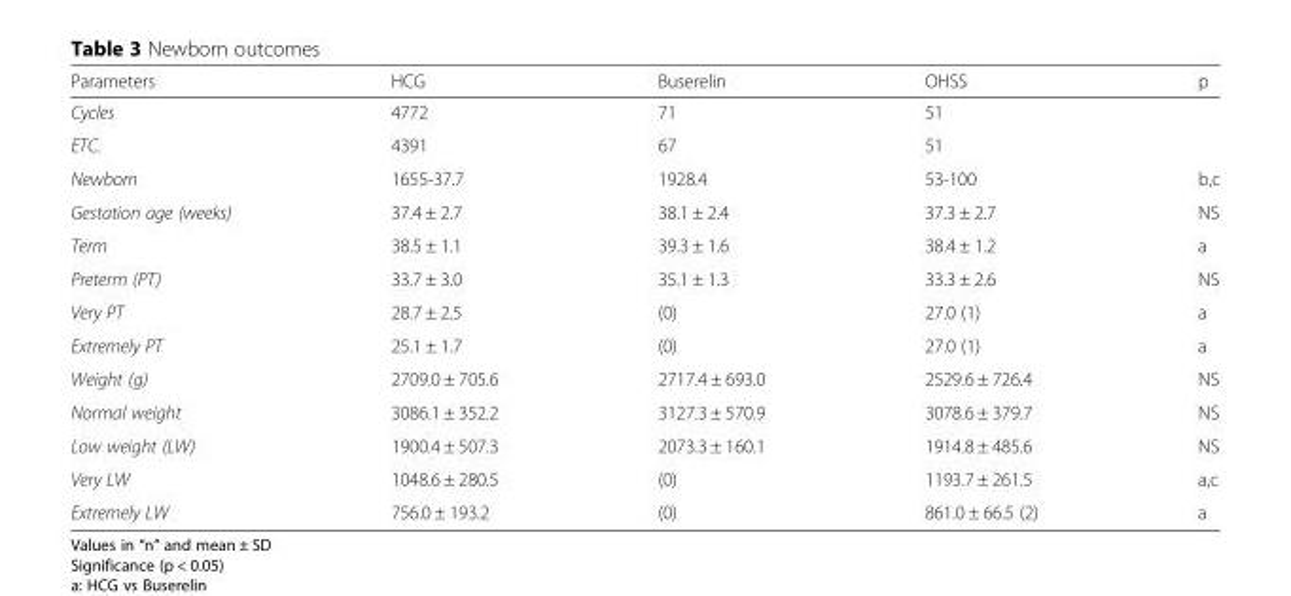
<table><thead><tr><td>Parameters</td><td>HCG</td><td>Buserelin</td><td>OHSS</td><td>p</td></tr></thead><tbody><tr><td>Cycles</td><td>4772</td><td>71</td><td>51</td><td></td></tr><tr><td>ETC.</td><td>4391</td><td>67</td><td>51</td><td></td></tr><tr><td>Newborn</td><td>1655-37.7</td><td>1928.4</td><td>53-100</td><td>b,c</td></tr><tr><td>Gestation age (weeks)</td><td>37.4 ± 2.7</td><td>38.1 ± 2.4</td><td>37.3 ± 2.7</td><td>NS</td></tr><tr><td>Term</td><td>38.5 ± 1.1</td><td>39.3 ± 1.6</td><td>38.4 ± 1.2</td><td>a</td></tr><tr><td>Preterm (PT)</td><td>33.7 ± 3.0</td><td>35.1 ± 1.3</td><td>33.3 ± 2.6</td><td>NS</td></tr><tr><td>Very PT</td><td>28.7 ± 2.5</td><td>(0)</td><td>27.0 (1)</td><td>a</td></tr><tr><td>Extremely PT</td><td>25.1 ± 1.7</td><td>(0)</td><td>27.0 (1)</td><td>a</td></tr><tr><td>Weight (g)</td><td>2709.0 ± 705.6</td><td>2717.4 ± 693.0</td><td>2529.6 ± 726.4</td><td>NS</td></tr><tr><td>Normal weight</td><td>3086.1 ± 352.2</td><td>3127.3 ± 570.9</td><td>3078.6 ± 379.7</td><td>NS</td></tr><tr><td>Low weight (LW)</td><td>1900.4 ± 507.3</td><td>2073.3 ± 160.1</td><td>1914.8 ± 485.6</td><td>NS</td></tr><tr><td>Very LW</td><td>1048.6 ± 280.5</td><td>(0)</td><td>1193.7 ± 261.5</td><td>a,c</td></tr><tr><td>Extremely LW</td><td>756.0 ± 193.2</td><td>(0)</td><td>861.0 ± 66.5 (2)</td><td>a</td></tr></tbody></table>